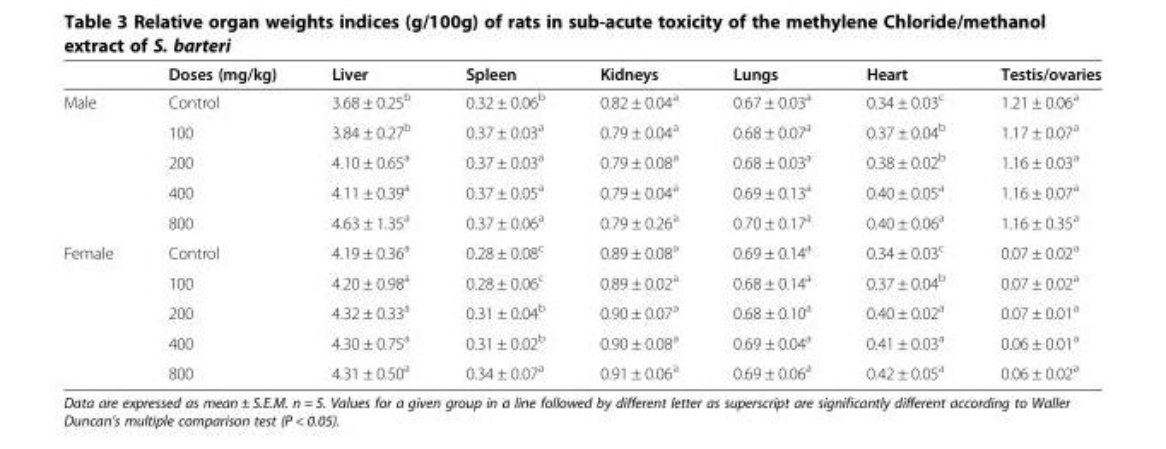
<table><thead><tr><td></td><td>Doses (mg/kg)</td><td>Liver</td><td>Spleen</td><td>Kidneys</td><td>Lungs</td><td>Heart</td><td>Testis/ovaries</td></tr></thead><tbody><tr><td rowspan="5">Male</td><td>Control</td><td>3.68 ± 0.25<sup>b</sup></td><td>0.32 ± 0.06<sup>b</sup></td><td>0.82 ± 0.04<sup>a</sup></td><td>0.67 ± 0.03<sup>a</sup></td><td>0.34 ± 0.03<sup>c</sup></td><td>1.21 ± 0.06<sup>a</sup></td></tr><tr><td>100</td><td>3.84 ± 0.27<sup>b</sup></td><td>0.37 ± 0.03<sup>a</sup></td><td>0.79 ± 0.04<sup>a</sup></td><td>0.68 ± 0.07<sup>a</sup></td><td>0.37 ± 0.04<sup>b</sup></td><td>1.17 ± 0.07<sup>a</sup></td></tr><tr><td>200</td><td>4.10 ± 0.65<sup>a</sup></td><td>0.37 ± 0.03<sup>a</sup></td><td>0.79 ± 0.08<sup>a</sup></td><td>0.68 ± 0.03<sup>a</sup></td><td>0.38 ± 0.02<sup>b</sup></td><td>1.16 ± 0.03<sup>a</sup></td></tr><tr><td>400</td><td>4.11 ± 0.39<sup>a</sup></td><td>0.37 ± 0.05<sup>a</sup></td><td>0.79 ± 0.04<sup>a</sup></td><td>0.69 ± 0.13<sup>a</sup></td><td>0.40 ± 0.05<sup>a</sup></td><td>1.16 ± 0.07<sup>a</sup></td></tr><tr><td>800</td><td>4.63 ± 1.35<sup>a</sup></td><td>0.37 ± 0.06<sup>a</sup></td><td>0.79 ± 0.26<sup>a</sup></td><td>0.70 ± 0.17<sup>a</sup></td><td>0.40 ± 0.06<sup>a</sup></td><td>1.16 ± 0.35<sup>a</sup></td></tr><tr><td rowspan="5">Female</td><td>Control</td><td>4.19 ± 0.36<sup>a</sup></td><td>0.28 ± 0.08<sup>c</sup></td><td>0.89 ± 0.08<sup>a</sup></td><td>0.69 ± 0.14<sup>a</sup></td><td>0.34 ± 0.03<sup>c</sup></td><td>0.07 ± 0.02<sup>a</sup></td></tr><tr><td>100</td><td>4.20 ± 0.98<sup>a</sup></td><td>0.28 ± 0.06<sup>c</sup></td><td>0.89 ± 0.02<sup>a</sup></td><td>0.68 ± 0.14<sup>a</sup></td><td>0.37 ± 0.04<sup>b</sup></td><td>0.07 ± 0.02<sup>a</sup></td></tr><tr><td>200</td><td>4.32 ± 0.33<sup>a</sup></td><td>0.31 ± 0.04<sup>b</sup></td><td>0.90 ± 0.07<sup>a</sup></td><td>0.68 ± 0.10<sup>a</sup></td><td>0.40 ± 0.02<sup>a</sup></td><td>0.07 ± 0.01<sup>a</sup></td></tr><tr><td>400</td><td>4.30 ± 0.75<sup>a</sup></td><td>0.31 ± 0.02<sup>b</sup></td><td>0.90 ± 0.08<sup>a</sup></td><td>0.69 ± 0.04<sup>a</sup></td><td>0.41 ± 0.03<sup>a</sup></td><td>0.06 ± 0.01<sup>a</sup></td></tr><tr><td>800</td><td>4.31 ± 0.50<sup>a</sup></td><td>0.34 ± 0.07<sup>a</sup></td><td>0.91 ± 0.06<sup>a</sup></td><td>0.69 ± 0.06<sup>a</sup></td><td>0.42 ± 0.05<sup>a</sup></td><td>0.06 ± 0.02<sup>a</sup></td></tr></tbody></table>